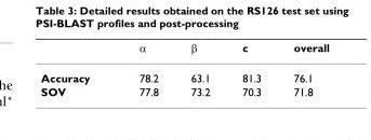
<table><thead><tr><td></td><td>α</td><td>β</td><td>c</td><td>overall</td></tr></thead><tbody><tr><td>Accuracy</td><td>78.2</td><td>63.1</td><td>81.3</td><td>76.1</td></tr><tr><td>SOV</td><td>77.8</td><td>73.2</td><td>70.3</td><td>71.8</td></tr></tbody></table>